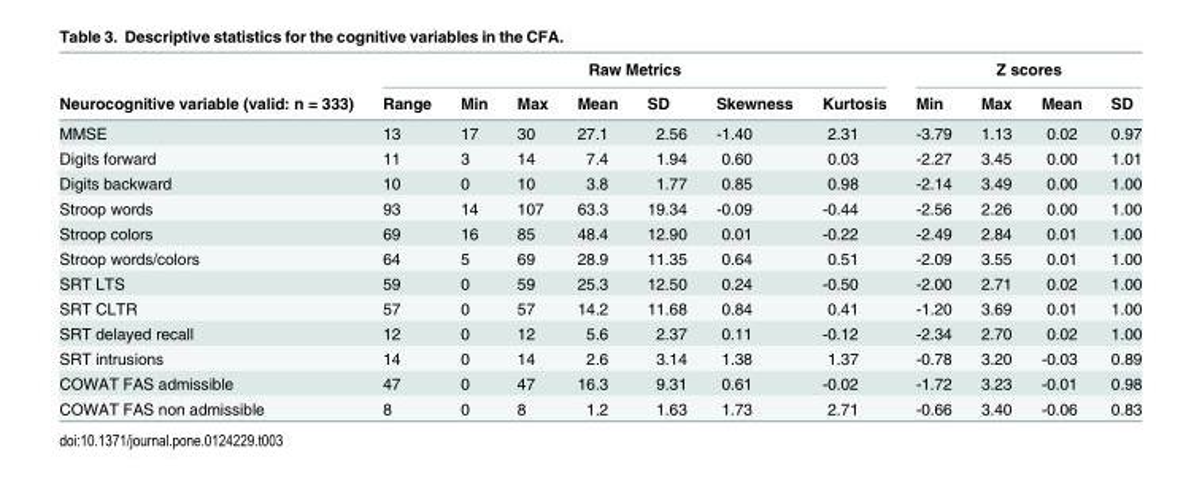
<table><thead><tr><td rowspan="2">Neurocognitive variable (valid: n = 333)</td><td colspan="7">Raw Metrics</td><td colspan="4">Z scores</td></tr><tr><td>Range</td><td>Min</td><td>Max</td><td>Mean</td><td>SD</td><td>Skewness</td><td>Kurtosis</td><td>Min</td><td>Max</td><td>Mean</td><td>SD</td></tr></thead><tbody><tr><td>MMSE</td><td>13</td><td>17</td><td>30</td><td>27.1</td><td>2.56</td><td>-1.40</td><td>2.31</td><td>-3.79</td><td>1.13</td><td>0.02</td><td>0.97</td></tr><tr><td>Digits forward</td><td>11</td><td>3</td><td>14</td><td>7.4</td><td>1.94</td><td>0.60</td><td>0.03</td><td>-2.27</td><td>3.45</td><td>0.00</td><td>1.01</td></tr><tr><td>Digits backward</td><td>10</td><td>0</td><td>10</td><td>3.8</td><td>1.77</td><td>0.85</td><td>0.98</td><td>-2.14</td><td>3.49</td><td>0.00</td><td>1.00</td></tr><tr><td>Stroop words</td><td>93</td><td>14</td><td>107</td><td>63.3</td><td>19.34</td><td>-0.09</td><td>-0.44</td><td>-2.56</td><td>2.26</td><td>0.00</td><td>1.00</td></tr><tr><td>Stroop colors</td><td>69</td><td>16</td><td>85</td><td>48.4</td><td>12.90</td><td>0.01</td><td>-0.22</td><td>-2.49</td><td>2.84</td><td>0.01</td><td>1.00</td></tr><tr><td>Stroop words/colors</td><td>64</td><td>5</td><td>69</td><td>28.9</td><td>11.35</td><td>0.64</td><td>0.51</td><td>-2.09</td><td>3.55</td><td>0.01</td><td>1.00</td></tr><tr><td>SRT LTS</td><td>59</td><td>0</td><td>59</td><td>25.3</td><td>12.50</td><td>0.24</td><td>-0.50</td><td>-2.00</td><td>2.71</td><td>0.02</td><td>1.00</td></tr><tr><td>SRT CLTR</td><td>57</td><td>0</td><td>57</td><td>14.2</td><td>11.68</td><td>0.84</td><td>0.41</td><td>-1.20</td><td>3.69</td><td>0.01</td><td>1.00</td></tr><tr><td>SRT delayed recall</td><td>12</td><td>0</td><td>12</td><td>5.6</td><td>2.37</td><td>0.11</td><td>-0.12</td><td>-2.34</td><td>2.70</td><td>0.02</td><td>1.00</td></tr><tr><td>SRT intrusions</td><td>14</td><td>0</td><td>14</td><td>2.6</td><td>3.14</td><td>1.38</td><td>1.37</td><td>-0.78</td><td>3.20</td><td>-0.03</td><td>0.89</td></tr><tr><td>COWAT FAS admissible</td><td>47</td><td>0</td><td>47</td><td>16.3</td><td>9.31</td><td>0.61</td><td>-0.02</td><td>-1.72</td><td>3.23</td><td>-0.01</td><td>0.98</td></tr><tr><td>COWAT FAS non admissible</td><td>8</td><td>0</td><td>8</td><td>1.2</td><td>1.63</td><td>1.73</td><td>2.71</td><td>-0.66</td><td>3.40</td><td>-0.06</td><td>0.83</td></tr></tbody></table>